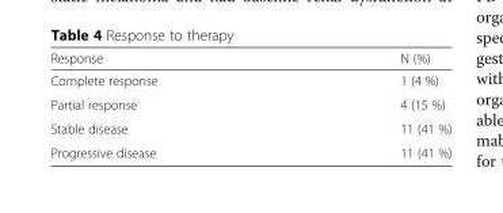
<table><thead><tr><td>Response</td><td>N (%)</td></tr></thead><tbody><tr><td>Complete response</td><td>1 (4 %)</td></tr><tr><td>Partial response</td><td>4 (15 %)</td></tr><tr><td>Stable disease</td><td>11 (41 %)</td></tr><tr><td>Progressive disease</td><td>11 (41 %)</td></tr></tbody></table>